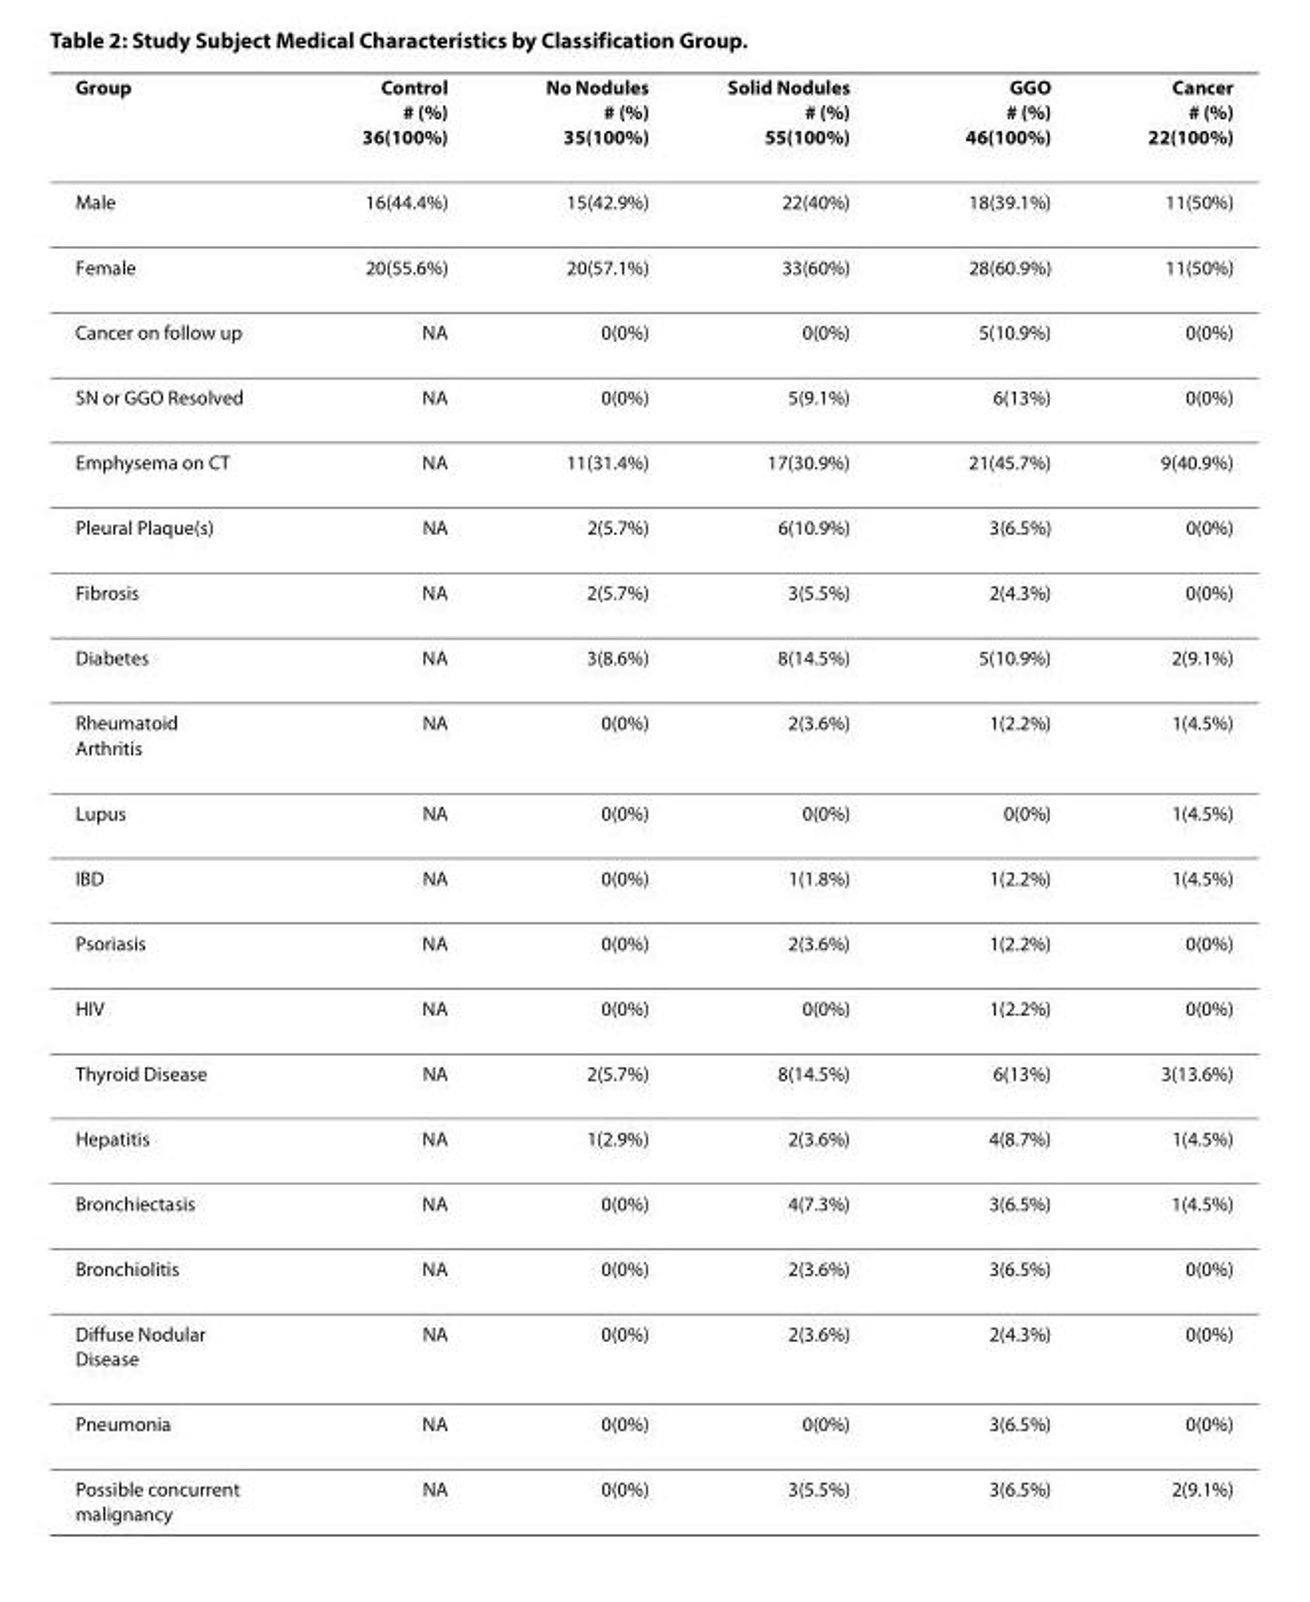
<table><thead><tr><td>Group</td><td>Control # (%) 36(100%)</td><td>No Nodules # (%) 35(100%)</td><td>Solid Nodules # (%) 55(100%)</td><td>GGO # (%) 46(100%)</td><td>Cancer # (%) 22(100%)</td></tr></thead><tbody><tr><td>Male</td><td>16(44.4%)</td><td>15(42.9%)</td><td>22(40%)</td><td>18(39.1%)</td><td>11(50%)</td></tr><tr><td>Female</td><td>20(55.6%)</td><td>20(57.1%)</td><td>33(60%)</td><td>28(60.9%)</td><td>11(50%)</td></tr><tr><td>Cancer on follow up</td><td>NA</td><td>0(0%)</td><td>0(0%)</td><td>5(10.9%)</td><td>0(0%)</td></tr><tr><td>SN or GGO Resolved</td><td>NA</td><td>0(0%)</td><td>5(9.1%)</td><td>6(13%)</td><td>0(0%)</td></tr><tr><td>Emphysema on CT</td><td>NA</td><td>11(31.4%)</td><td>17(30.9%)</td><td>21(45.7%)</td><td>9(40.9%)</td></tr><tr><td>Pleural Plaque(s)</td><td>NA</td><td>2(5.7%)</td><td>6(10.9%)</td><td>3(6.5%)</td><td>0(0%)</td></tr><tr><td>Fibrosis</td><td>NA</td><td>2(5.7%)</td><td>3(5.5%)</td><td>2(4.3%)</td><td>0(0%)</td></tr><tr><td>Diabetes</td><td>NA</td><td>3(8.6%)</td><td>8(14.5%)</td><td>5(10.9%)</td><td>2(9.1%)</td></tr><tr><td>Rheumatoid Arthritis</td><td>NA</td><td>0(0%)</td><td>2(3.6%)</td><td>1(2.2%)</td><td>1(4.5%)</td></tr><tr><td>Lupus</td><td>NA</td><td>0(0%)</td><td>0(0%)</td><td>0(0%)</td><td>1(4.5%)</td></tr><tr><td>IBD</td><td>NA</td><td>0(0%)</td><td>1(1.8%)</td><td>1(2.2%)</td><td>1(4.5%)</td></tr><tr><td>Psoriasis</td><td>NA</td><td>0(0%)</td><td>2(3.6%)</td><td>1(2.2%)</td><td>0(0%)</td></tr><tr><td>HIV</td><td>NA</td><td>0(0%)</td><td>0(0%)</td><td>1(2.2%)</td><td>0(0%)</td></tr><tr><td>Thyroid Disease</td><td>NA</td><td>2(5.7%)</td><td>8(14.5%)</td><td>6(13%)</td><td>3(13.6%)</td></tr><tr><td>Hepatitis</td><td>NA</td><td>1(2.9%)</td><td>2(3.6%)</td><td>4(8.7%)</td><td>1(4.5%)</td></tr><tr><td>Bronchiectasis</td><td>NA</td><td>0(0%)</td><td>4(7.3%)</td><td>3(6.5%)</td><td>1(4.5%)</td></tr><tr><td>Bronchiolitis</td><td>NA</td><td>0(0%)</td><td>2(3.6%)</td><td>3(6.5%)</td><td>0(0%)</td></tr><tr><td>Diffuse Nodular Disease</td><td>NA</td><td>0(0%)</td><td>2(3.6%)</td><td>2(4.3%)</td><td>0(0%)</td></tr><tr><td>Pneumonia</td><td>NA</td><td>0(0%)</td><td>0(0%)</td><td>3(6.5%)</td><td>0(0%)</td></tr><tr><td>Possible concurrent malignancy</td><td>NA</td><td>0(0%)</td><td>3(5.5%)</td><td>3(6.5%)</td><td>2(9.1%)</td></tr></tbody></table>